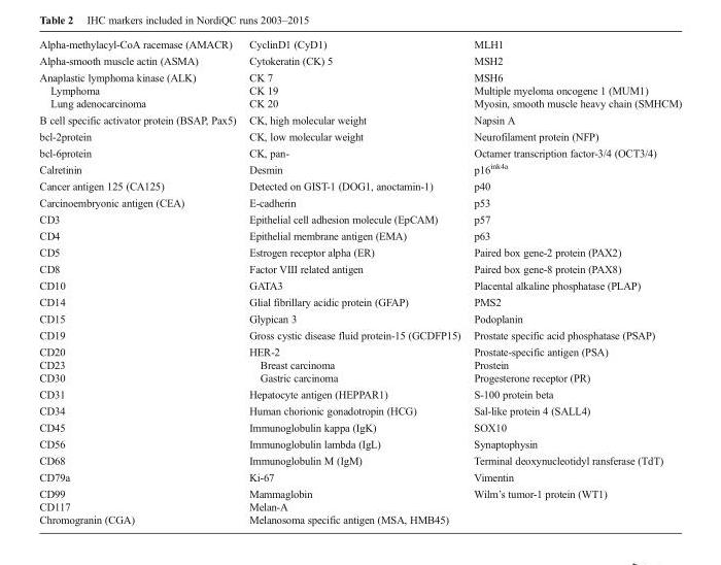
<table><tbody><tr><td>Alpha-methylacyl-CoA racemase (AMACR)</td><td>CyclinD1 (CyD1)</td><td>MLH1</td></tr><tr><td>Alpha-smooth muscle actin (ASMA)</td><td>Cytokeratin (CK) 5</td><td>MSH2</td></tr><tr><td>Anaplastic lymphoma kinase (ALK) Lymphoma Lung adenocarcinoma</td><td>CK 7 CK 19 CK 20</td><td>MSH6 Multiple myeloma oncogene 1 (MUM1) Myosin, smooth muscle heavy chain (SMHCM)</td></tr><tr><td>B cell specific activator protein (BSAP, Pax5)</td><td>CK, high molecular weight</td><td>Napsin A</td></tr><tr><td>bcl-2protein</td><td>CK, low molecular weight</td><td>Neurofilament protein (NFP)</td></tr><tr><td>bcl-6protein</td><td>CK, pan-</td><td>Octamer transcription factor-3/4 (OCT3/4)</td></tr><tr><td>Calretinin</td><td>Desmin</td><td>p16<sup>ink4a</sup></td></tr><tr><td>Cancer antigen 125 (CA125)</td><td>Detected on GIST-1 (DOG1, anoctamin-1)</td><td>p40</td></tr><tr><td>Carcinoembryonic antigen (CEA)</td><td>E-cadherin</td><td>p53</td></tr><tr><td>CD3</td><td>Epithelial cell adhesion molecule (EpCAM)</td><td>p57</td></tr><tr><td>CD4</td><td>Epithelial membrane antigen (EMA)</td><td>p63</td></tr><tr><td>CD5</td><td>Estrogen receptor alpha (ER)</td><td>Paired box gene-2 protein (PAX2)</td></tr><tr><td>CD8</td><td>Factor VIII related antigen</td><td>Paired box gene-8 protein (PAX8)</td></tr><tr><td>CD10</td><td>GATA3</td><td>Placental alkaline phosphatase (PLAP)</td></tr><tr><td>CD14</td><td>Glial fibrillary acidic protein (GFAP)</td><td>PMS2</td></tr><tr><td>CD15</td><td>Glypican 3</td><td>Podoplanin</td></tr><tr><td>CD19</td><td>Gross cystic disease fluid protein-15 (GCDFP15)</td><td>Prostate specific acid phosphatase (PSAP)</td></tr><tr><td>CD20 CD23 CD30</td><td>HER-2 Breast carcinoma Gastric carcinoma</td><td>Prostate-specific antigen (PSA) Prostein Progesterone receptor (PR)</td></tr><tr><td>CD31</td><td>Hepatocyte antigen (HEPPAR1)</td><td>S-100 protein beta</td></tr><tr><td>CD34</td><td>Human chorionic gonadotropin (HCG)</td><td>Sal-like protein 4 (SALL4)</td></tr><tr><td>CD45</td><td>Immunoglobulin kappa (IgK)</td><td>SOX10</td></tr><tr><td>CD56</td><td>Immunoglobulin lambda (IgL)</td><td>Synaptophysin</td></tr><tr><td>CD68</td><td>Immunoglobulin M (IgM)</td><td>Terminal deoxynucleotidyl ransferase (TdT)</td></tr><tr><td>CD79a</td><td>Ki-67</td><td>Vimentin</td></tr><tr><td>CD99 CD117 Chromogranin (CGA)</td><td>Mammaglobin Melan-A Melanosoma specific antigen (MSA, HMB45)</td><td>Wilm’s tumor-1 protein (WT1)</td></tr></tbody></table>